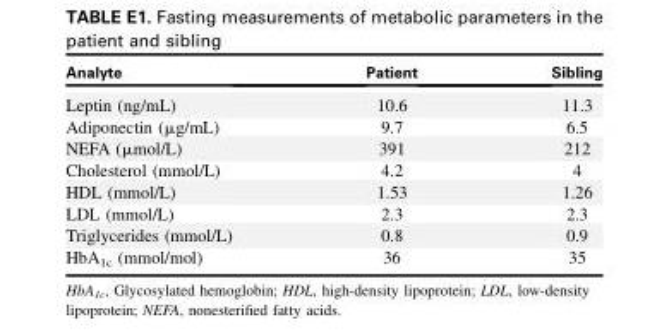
<table><thead><tr><td>Analyte</td><td>Patient</td><td>Sibling</td></tr></thead><tbody><tr><td>Leptin (ng/mL)</td><td>10.6</td><td>11.3</td></tr><tr><td>Adiponectin (μg/mL)</td><td>9.7</td><td>6.5</td></tr><tr><td>NEFA (μmol/L)</td><td>391</td><td>212</td></tr><tr><td>Cholesterol (mmol/L)</td><td>4.2</td><td>4</td></tr><tr><td>HDL (mmol/L)</td><td>1.53</td><td>1.26</td></tr><tr><td>LDL (mmol/L)</td><td>2.3</td><td>2.3</td></tr><tr><td>Triglycerides (mmol/L)</td><td>0.8</td><td>0.9</td></tr><tr><td>HbA1c (mmol/mol)</td><td>36</td><td>35</td></tr></tbody></table>